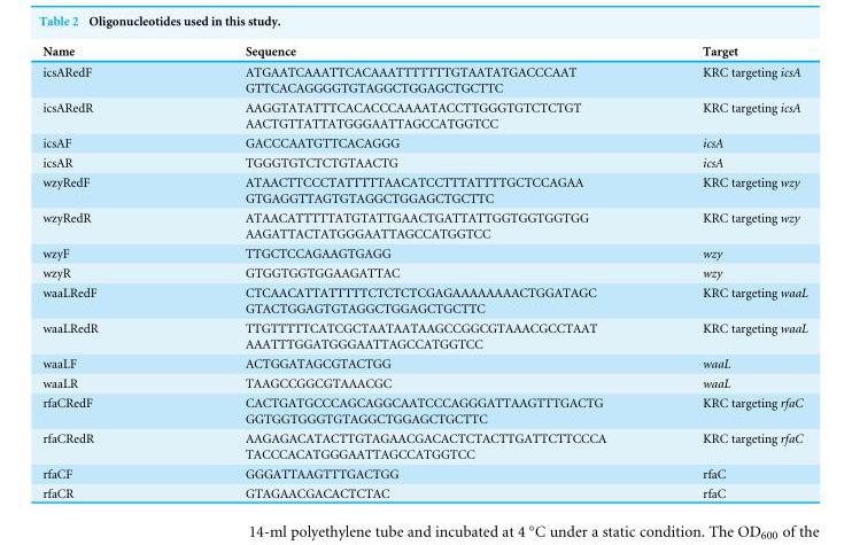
<table><thead><tr><td>Name</td><td>Sequence</td><td>Target</td></tr></thead><tbody><tr><td>icsARedF</td><td>ATGAATCAAATTCACAAATTTTTTTGTAATATGACCCAAT GTTCACAGGGGTGTAGGCTGGAGCTGCTTC</td><td>KRC targeting icsA</td></tr><tr><td>icsARedR</td><td>AAGGTATATTTCACACCCAAAATACCTTGGGTGTCTCTGT AACTGTTATTATGGGAATTAGCCATGGTCC</td><td>KRC targeting icsA</td></tr><tr><td>icsAF</td><td>GACCCAATGTTCACAGGG</td><td>icsA</td></tr><tr><td>icsAR</td><td>TGGGTGTCTCTGTAACTG</td><td>icsA</td></tr><tr><td>wzyRedF</td><td>ATAACTTCCCTATTTTTAACATCCTTTATTTTGCTCCAGAA GTGAGGTTAGTGTAGGCTGGAGCTGCTTC</td><td>KRC targeting wzy</td></tr><tr><td>wzyRedR</td><td>ATAACATTTTTATGTATTGAACTGATTATTGGTGGTGGTGG AAGATTACTATGGGAATTAGCCATGGTCC</td><td>KRC targeting wzy</td></tr><tr><td>wzyF</td><td>TTGCTCCAGAAGTGAGG</td><td>wzy</td></tr><tr><td>wzyR</td><td>GTGGTGGTGGAAGATTAC</td><td>wzy</td></tr><tr><td>waaLRedF</td><td>CTCAACATTATTTTTCTCTCTCGAGAAAAAAAACTGGATAGC GTACTGGAGTGTAGGCTGGAGCTGCTTC</td><td>KRC targeting waaL</td></tr><tr><td>waaLRedR</td><td>TTGTTTTTCATCGCTAATAATAAGCCGGCGTAAACGCCTAAT AAATTTGGATGGGAATTAGCCATGGTCC</td><td>KRC targeting waaL</td></tr><tr><td>waaLF</td><td>ACTGGATAGCGTACTGG</td><td>waaL</td></tr><tr><td>waaLR</td><td>TAAGCCGGCGTAAACGC</td><td>waaL</td></tr><tr><td>rfaCRedF</td><td>CACTGATGCCCAGCAGGCAATCCCAGGGATTAAGTTTGACTG GGTGGTGGGTGTAGGCTGGAGCTGCTTC</td><td>KRC targeting rfaC</td></tr><tr><td>rfaCRedR</td><td>AAGAGACATACTTGTAGAACGACACTCTACTTGATTCTTCCCA TACCCACATGGGAATTAGCCATGGTCC</td><td>KRC targeting rfaC</td></tr><tr><td>rfaCF</td><td>GGGATTAAGTTTGACTGG</td><td>rfaC</td></tr><tr><td>rfaCR</td><td>GTAGAACGACACTCTAC</td><td>rfaC</td></tr></tbody></table>